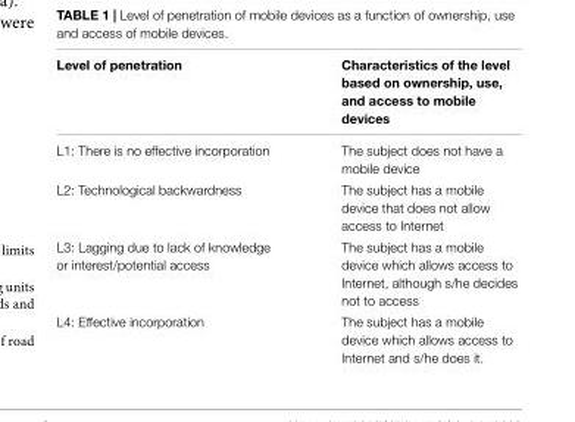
<table><thead><tr><td>Level of penetration</td><td>Characteristics of the level based on ownership, use, and access to mobile devices</td></tr></thead><tbody><tr><td>L1: There is no effective incorporation</td><td>The subject does not have a mobile device</td></tr><tr><td>L2: Technological backwardness</td><td>The subject has a mobile device that does not allow access to Internet</td></tr><tr><td>L3: Lagging due to lack of knowledge or interest/potential access</td><td>The subject has a mobile device which allows access to Internet, although s/he decides not to access</td></tr><tr><td>L4: Effective incorporation</td><td>The subject has a mobile device which allows access to Internet and s/he does it.</td></tr></tbody></table>